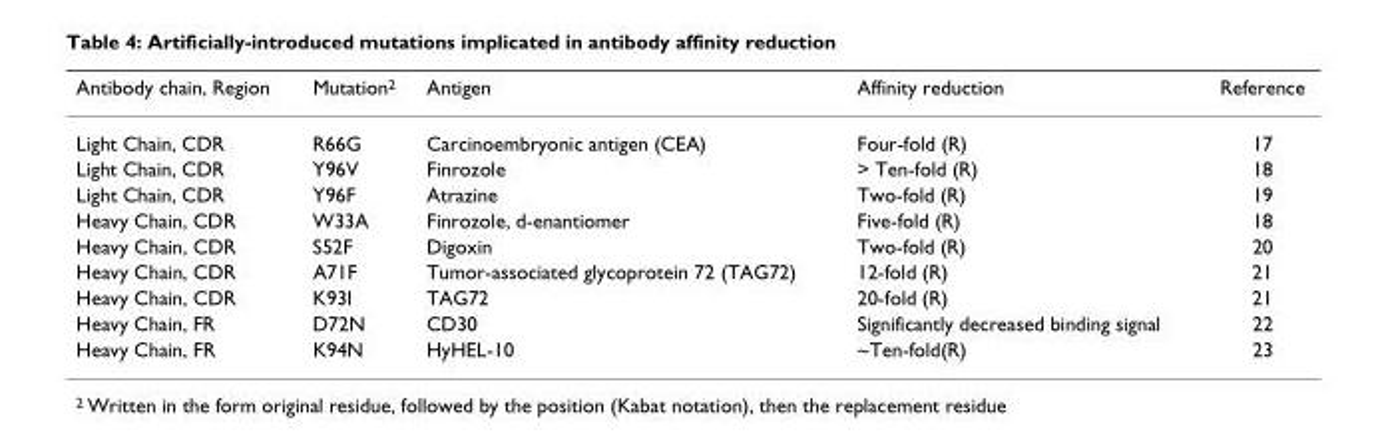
<table><thead><tr><td>Antibody chain, Region</td><td>Mutation<sup>2</sup></td><td>Antigen</td><td>Affinity reduction</td><td>Reference</td></tr></thead><tbody><tr><td>Light Chain, CDR</td><td>R66G</td><td>Carcinoembryonic antigen (CEA)</td><td>Four-fold (R)</td><td>17</td></tr><tr><td>Light Chain, CDR</td><td>Y96V</td><td>Finrozole</td><td>&gt; Ten-fold (R)</td><td>18</td></tr><tr><td>Light Chain, CDR</td><td>Y96F</td><td>Atrazine</td><td>Two-fold (R)</td><td>19</td></tr><tr><td>Heavy Chain, CDR</td><td>W33A</td><td>Finrozole, d-enantiomer</td><td>Five-fold (R)</td><td>18</td></tr><tr><td>Heavy Chain, CDR</td><td>S52F</td><td>Digoxin</td><td>Two-fold (R)</td><td>20</td></tr><tr><td>Heavy Chain, CDR</td><td>A71F</td><td>Tumor-associated glycoprotein 72 (TAG72)</td><td>12-fold (R)</td><td>21</td></tr><tr><td>Heavy Chain, CDR</td><td>K93I</td><td>TAG72</td><td>20-fold (R)</td><td>21</td></tr><tr><td>Heavy Chain, FR</td><td>D72N</td><td>CD30</td><td>Significantly decreased binding signal</td><td>22</td></tr><tr><td>Heavy Chain, FR</td><td>K94N</td><td>HyHEL-10</td><td>~Ten-fold(R)</td><td>23</td></tr></tbody></table>